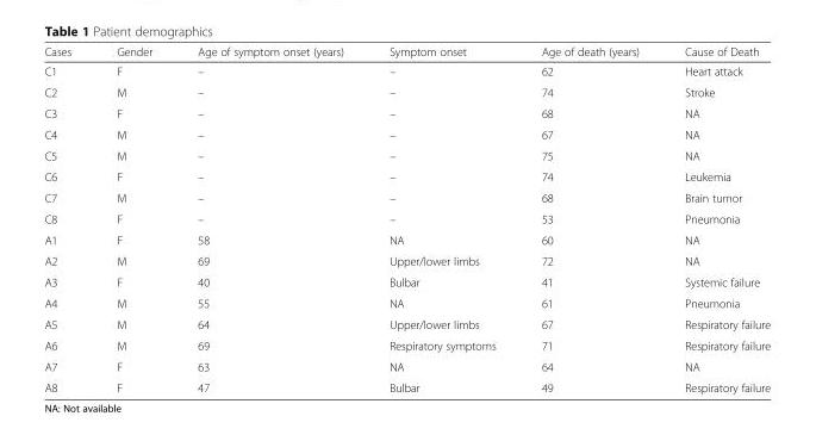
<table><thead><tr><td>Cases</td><td>Gender</td><td>Age of symptom onset (years)</td><td>Symptom onset</td><td>Age of death (years)</td><td>Cause of Death</td></tr></thead><tbody><tr><td>C1</td><td>F</td><td>–</td><td>–</td><td>62</td><td>Heart attack</td></tr><tr><td>C2</td><td>M</td><td>–</td><td>–</td><td>74</td><td>Stroke</td></tr><tr><td>C3</td><td>F</td><td>–</td><td>–</td><td>68</td><td>NA</td></tr><tr><td>C4</td><td>M</td><td>–</td><td>–</td><td>67</td><td>NA</td></tr><tr><td>C5</td><td>M</td><td>–</td><td>–</td><td>75</td><td>NA</td></tr><tr><td>C6</td><td>F</td><td>–</td><td>–</td><td>74</td><td>Leukemia</td></tr><tr><td>C7</td><td>M</td><td>–</td><td>–</td><td>68</td><td>Brain tumor</td></tr><tr><td>C8</td><td>F</td><td>–</td><td>–</td><td>53</td><td>Pneumonia</td></tr><tr><td>A1</td><td>F</td><td>58</td><td>NA</td><td>60</td><td>NA</td></tr><tr><td>A2</td><td>M</td><td>69</td><td>Upper/lower limbs</td><td>72</td><td>NA</td></tr><tr><td>A3</td><td>F</td><td>40</td><td>Bulbar</td><td>41</td><td>Systemic failure</td></tr><tr><td>A4</td><td>M</td><td>55</td><td>NA</td><td>61</td><td>Pneumonia</td></tr><tr><td>A5</td><td>M</td><td>64</td><td>Upper/lower limbs</td><td>67</td><td>Respiratory failure</td></tr><tr><td>A6</td><td>M</td><td>69</td><td>Respiratory symptoms</td><td>71</td><td>Respiratory failure</td></tr><tr><td>A7</td><td>F</td><td>63</td><td>NA</td><td>64</td><td>NA</td></tr><tr><td>A8</td><td>F</td><td>47</td><td>Bulbar</td><td>49</td><td>Respiratory failure</td></tr></tbody></table>